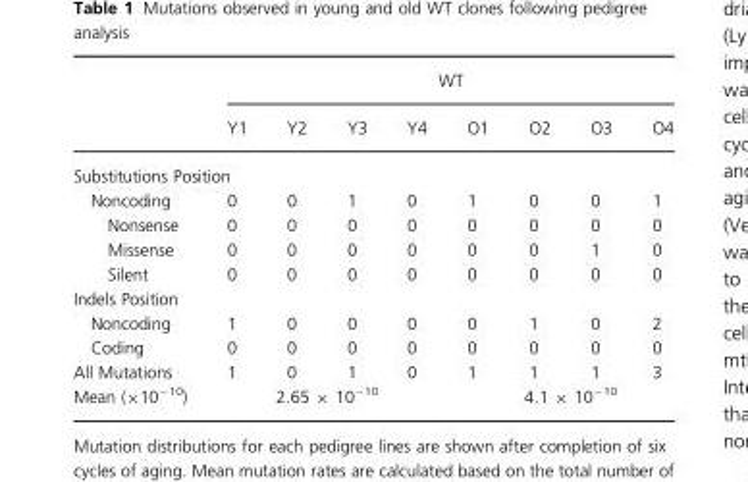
<table><thead><tr><td rowspan="2"></td><td colspan="8">WT</td></tr><tr><td>Y1</td><td>Y2</td><td>Y3</td><td>Y4</td><td>O1</td><td>O2</td><td>O3</td><td>O4</td></tr></thead><tbody><tr><td colspan="9">Substitutions Position</td></tr><tr><td>Noncoding</td><td>0</td><td>0</td><td>1</td><td>0</td><td>1</td><td>0</td><td>0</td><td>1</td></tr><tr><td>Nonsense</td><td>0</td><td>0</td><td>0</td><td>0</td><td>0</td><td>0</td><td>0</td><td>0</td></tr><tr><td>Missense</td><td>0</td><td>0</td><td>0</td><td>0</td><td>0</td><td>0</td><td>1</td><td>0</td></tr><tr><td>Silent</td><td>0</td><td>0</td><td>0</td><td>0</td><td>0</td><td>0</td><td>0</td><td>0</td></tr><tr><td colspan="9">Indels Position</td></tr><tr><td>Noncoding</td><td>1</td><td>0</td><td>0</td><td>0</td><td>0</td><td>1</td><td>0</td><td>2</td></tr><tr><td>Coding</td><td>0</td><td>0</td><td>0</td><td>0</td><td>0</td><td>0</td><td>0</td><td>0</td></tr><tr><td>All Mutations</td><td>1</td><td>0</td><td>1</td><td>0</td><td>1</td><td>1</td><td>1</td><td>3</td></tr><tr><td>Mean (×10<sup>−10</sup>)</td><td colspan="4">2.65 × 10<sup>−10</sup></td><td colspan="4">4.1 × 10<sup>−10</sup></td></tr></tbody></table>